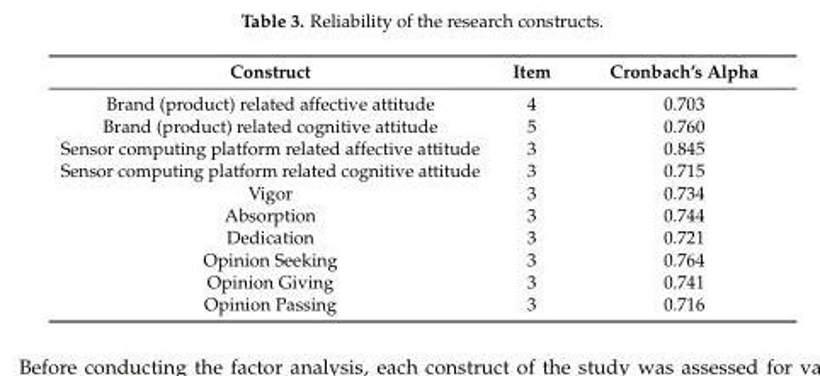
<table><thead><tr><td>Construct</td><td>Item</td><td>Cronbach’s Alpha</td></tr></thead><tbody><tr><td>Brand (product) related affective attitude</td><td>4</td><td>0.703</td></tr><tr><td>Brand (product) related cognitive attitude</td><td>5</td><td>0.760</td></tr><tr><td>Sensor computing platform related affective attitude</td><td>3</td><td>0.845</td></tr><tr><td>Sensor computing platform related cognitive attitude</td><td>3</td><td>0.715</td></tr><tr><td>Vigor</td><td>3</td><td>0.734</td></tr><tr><td>Absorption</td><td>3</td><td>0.744</td></tr><tr><td>Dedication</td><td>3</td><td>0.721</td></tr><tr><td>Opinion Seeking</td><td>3</td><td>0.764</td></tr><tr><td>Opinion Giving</td><td>3</td><td>0.741</td></tr><tr><td>Opinion Passing</td><td>3</td><td>0.716</td></tr></tbody></table>